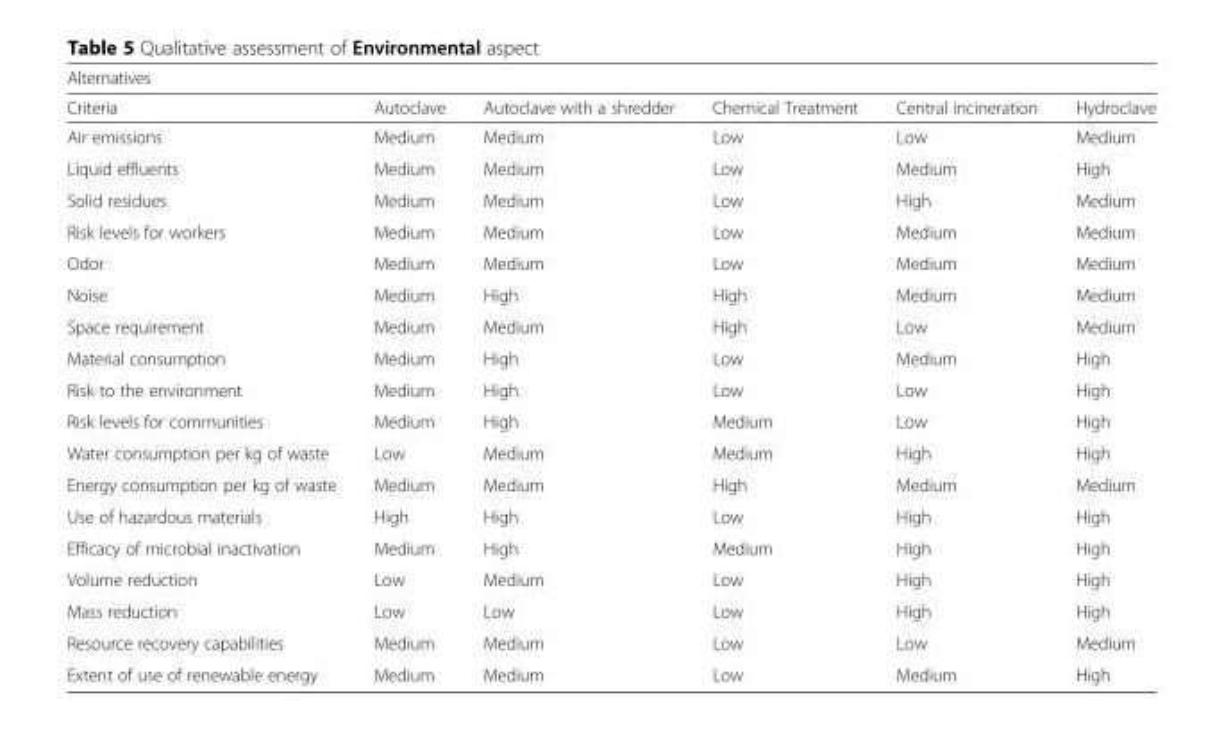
<table><thead><tr><td colspan="6">Alternatives</td></tr><tr><td>Criteria</td><td>Autoclave</td><td>Autoclave with a shredder</td><td>Chemical Treatment</td><td>Central incineration</td><td>Hydroclave</td></tr></thead><tbody><tr><td>Air emissions</td><td>Medium</td><td>Medium</td><td>Low</td><td>Low</td><td>Medium</td></tr><tr><td>Liquid effluents</td><td>Medium</td><td>Medium</td><td>Low</td><td>Medium</td><td>High</td></tr><tr><td>Solid residues</td><td>Medium</td><td>Medium</td><td>Low</td><td>High</td><td>Medium</td></tr><tr><td>Risk levels for workers</td><td>Medium</td><td>Medium</td><td>Low</td><td>Medium</td><td>Medium</td></tr><tr><td>Odor</td><td>Medium</td><td>Medium</td><td>Low</td><td>Medium</td><td>Medium</td></tr><tr><td>Noise</td><td>Medium</td><td>High</td><td>High</td><td>Medium</td><td>Medium</td></tr><tr><td>Space requirement</td><td>Medium</td><td>Medium</td><td>High</td><td>Low</td><td>Medium</td></tr><tr><td>Material consumption</td><td>Medium</td><td>High</td><td>Low</td><td>Medium</td><td>High</td></tr><tr><td>Risk to the environment</td><td>Medium</td><td>High</td><td>Low</td><td>Low</td><td>High</td></tr><tr><td>Risk levels for communities</td><td>Medium</td><td>High</td><td>Medium</td><td>Low</td><td>High</td></tr><tr><td>Water consumption per kg of waste</td><td>Low</td><td>Medium</td><td>Medium</td><td>High</td><td>High</td></tr><tr><td>Energy consumption per kg of waste</td><td>Medium</td><td>Medium</td><td>High</td><td>Medium</td><td>Medium</td></tr><tr><td>Use of hazardous materials</td><td>High</td><td>High</td><td>Low</td><td>High</td><td>High</td></tr><tr><td>Efficacy of microbial inactivation</td><td>Medium</td><td>High</td><td>Medium</td><td>High</td><td>High</td></tr><tr><td>Volume reduction</td><td>Low</td><td>Medium</td><td>Low</td><td>High</td><td>High</td></tr><tr><td>Mass reduction</td><td>Low</td><td>Low</td><td>Low</td><td>High</td><td>High</td></tr><tr><td>Resource recovery capabilities</td><td>Medium</td><td>Medium</td><td>Low</td><td>Low</td><td>Medium</td></tr><tr><td>Extent of use of renewable energy</td><td>Medium</td><td>Medium</td><td>Low</td><td>Medium</td><td>High</td></tr></tbody></table>